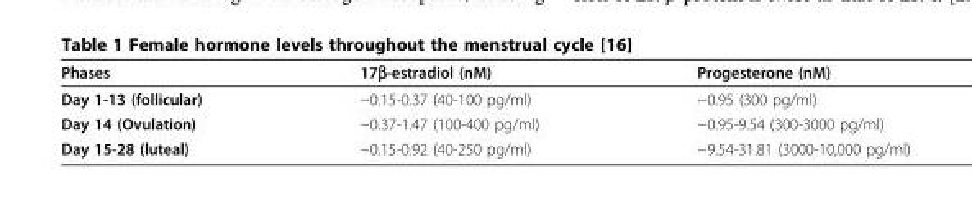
<table><thead><tr><td>Phases</td><td>17β-estradiol (nM)</td><td>Progesterone (nM)</td></tr></thead><tbody><tr><td>Day 1-13 (follicular)</td><td>~0.15-0.37 (40-100 pg/ml)</td><td>~0.95 (300 pg/ml)</td></tr><tr><td>Day 14 (Ovulation)</td><td>~0.37-1.47 (100-400 pg/ml)</td><td>~0.95-9.54 (300-3000 pg/ml)</td></tr><tr><td>Day 15-28 (luteal)</td><td>~0.15-0.92 (40-250 pg/ml)</td><td>~9.54-31.81 (3000-10,000 pg/ml)</td></tr></tbody></table>